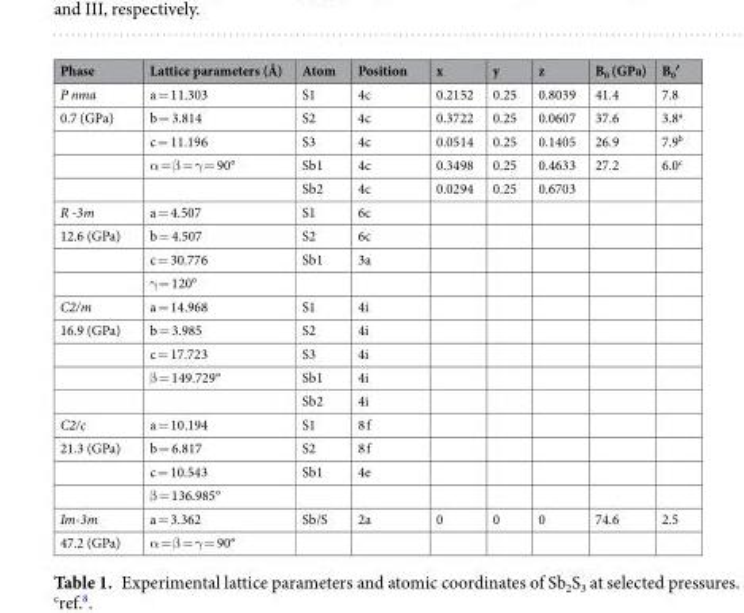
<table><thead><tr><td>Phase</td><td>Lattice parameters (Å)</td><td>Atom</td><td>Position</td><td>x</td><td>y</td><td>z</td><td>B<sub>0</sub> (GPa)</td><td>B<sub>0</sub>′</td></tr></thead><tbody><tr><td>P nma</td><td>a = 11.303</td><td>S1</td><td>4c</td><td>0.2152</td><td>0.25</td><td>0.8039</td><td>41.4</td><td>7.8</td></tr><tr><td rowspan="4">0.7 (GPa)</td><td>b = 3.814</td><td>S2</td><td>4c</td><td>0.3722</td><td>0.25</td><td>0.0607</td><td>37.6</td><td>3.8<sup>a</sup></td></tr><tr><td>c = 11.196</td><td>S3</td><td>4c</td><td>0.0514</td><td>0.25</td><td>0.1405</td><td>26.9</td><td>7.9<sup>b</sup></td></tr><tr><td>α = β = γ = 90°</td><td>Sb1</td><td>4c</td><td>0.3498</td><td>0.25</td><td>0.4633</td><td>27.2</td><td>6.0<sup>c</sup></td></tr><tr><td></td><td>Sb2</td><td>4c</td><td>0.0294</td><td>0.25</td><td>0.6703</td><td></td><td></td></tr><tr><td>R -3m</td><td>a = 4.507</td><td>S1</td><td>6c</td><td></td><td></td><td></td><td></td><td></td></tr><tr><td rowspan="3">12.6 (GPa)</td><td>b = 4.507</td><td>S2</td><td>6c</td><td></td><td></td><td></td><td></td><td></td></tr><tr><td>c = 30.776</td><td>Sb1</td><td>3a</td><td></td><td></td><td></td><td></td><td></td></tr><tr><td>γ = 120°</td><td></td><td></td><td></td><td></td><td></td><td></td><td></td></tr><tr><td>C2/m</td><td>a = 14.968</td><td>S1</td><td>4i</td><td></td><td></td><td></td><td></td><td></td></tr><tr><td rowspan="4">16.9 (GPa)</td><td>b = 3.985</td><td>S2</td><td>4i</td><td></td><td></td><td></td><td></td><td></td></tr><tr><td>c = 17.723</td><td>S3</td><td>4i</td><td></td><td></td><td></td><td></td><td></td></tr><tr><td>β = 149.729°</td><td>Sb1</td><td>4i</td><td></td><td></td><td></td><td></td><td></td></tr><tr><td></td><td>Sb2</td><td>4i</td><td></td><td></td><td></td><td></td><td></td></tr><tr><td>C2/c</td><td>a = 10.194</td><td>S1</td><td>8 f</td><td></td><td></td><td></td><td></td><td></td></tr><tr><td rowspan="3">21.3 (GPa)</td><td>b = 6.817</td><td>S2</td><td>8 f</td><td></td><td></td><td></td><td></td><td></td></tr><tr><td>c = 10.543</td><td>Sb1</td><td>4e</td><td></td><td></td><td></td><td></td><td></td></tr><tr><td>β = 136.985°</td><td></td><td></td><td></td><td></td><td></td><td></td><td></td></tr><tr><td>Im-3m</td><td>a = 3.362</td><td>Sb/S</td><td>2a</td><td>0</td><td>0</td><td>0</td><td>74.6</td><td>2.5</td></tr><tr><td>47.2 (GPa)</td><td>α = β = γ = 90°</td><td></td><td></td><td></td><td></td><td></td><td></td><td></td></tr></tbody></table>